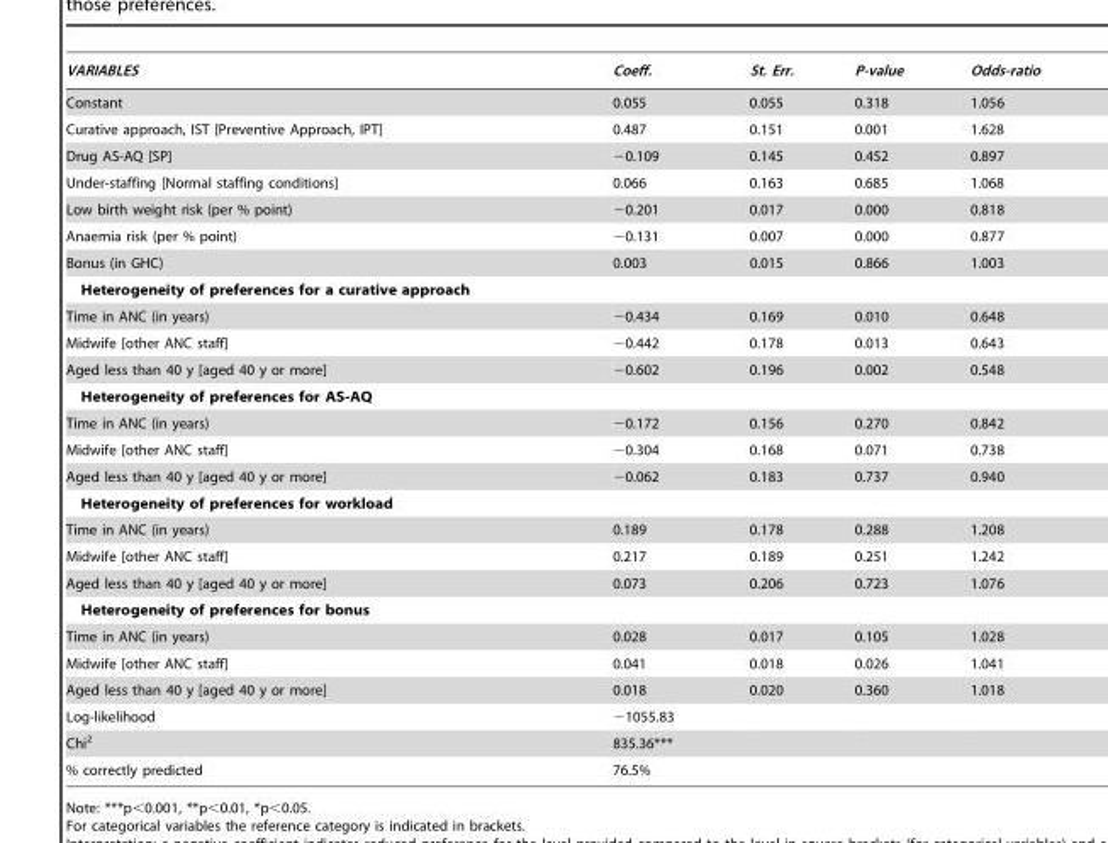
<table><thead><tr><td>VARIABLES</td><td>Coeff.</td><td>St. Err.</td><td>P-value</td><td>Odds-ratio</td></tr></thead><tbody><tr><td>Constant</td><td>0.055</td><td>0.055</td><td>0.318</td><td>1.056</td></tr><tr><td>Curative approach, IST [Preventive Approach, IPT]</td><td>0.487</td><td>0.151</td><td>0.001</td><td>1.628</td></tr><tr><td>Drug AS-AQ [SP]</td><td>−0.109</td><td>0.145</td><td>0.452</td><td>0.897</td></tr><tr><td>Under-staffing [Normal staffing conditions]</td><td>0.066</td><td>0.163</td><td>0.685</td><td>1.068</td></tr><tr><td>Low birth weight risk (per % point)</td><td>−0.201</td><td>0.017</td><td>0.000</td><td>0.818</td></tr><tr><td>Anaemia risk (per % point)</td><td>−0.131</td><td>0.007</td><td>0.000</td><td>0.877</td></tr><tr><td>Bonus (in GHC)</td><td>0.003</td><td>0.015</td><td>0.866</td><td>1.003</td></tr><tr><td colspan="5">Heterogeneity of preferences for a curative approach</td></tr><tr><td>Time in ANC (in years)</td><td>−0.434</td><td>0.169</td><td>0.010</td><td>0.648</td></tr><tr><td>Midwife [other ANC staff]</td><td>−0.442</td><td>0.178</td><td>0.013</td><td>0.643</td></tr><tr><td>Aged less than 40 y [aged 40 y or more]</td><td>−0.602</td><td>0.196</td><td>0.002</td><td>0.548</td></tr><tr><td colspan="5">Heterogeneity of preferences for AS-AQ</td></tr><tr><td>Time in ANC (in years)</td><td>−0.172</td><td>0.156</td><td>0.270</td><td>0.842</td></tr><tr><td>Midwife [other ANC staff]</td><td>−0.304</td><td>0.168</td><td>0.071</td><td>0.738</td></tr><tr><td>Aged less than 40 y [aged 40 y or more]</td><td>−0.062</td><td>0.183</td><td>0.737</td><td>0.940</td></tr><tr><td colspan="5">Heterogeneity of preferences for workload</td></tr><tr><td>Time in ANC (in years)</td><td>0.189</td><td>0.178</td><td>0.288</td><td>1.208</td></tr><tr><td>Midwife [other ANC staff]</td><td>0.217</td><td>0.189</td><td>0.251</td><td>1.242</td></tr><tr><td>Aged less than 40 y [aged 40 y or more]</td><td>0.073</td><td>0.206</td><td>0.723</td><td>1.076</td></tr><tr><td colspan="5">Heterogeneity of preferences for bonus</td></tr><tr><td>Time in ANC (in years)</td><td>0.028</td><td>0.017</td><td>0.105</td><td>1.028</td></tr><tr><td>Midwife [other ANC staff]</td><td>0.041</td><td>0.018</td><td>0.026</td><td>1.041</td></tr><tr><td>Aged less than 40 y [aged 40 y or more]</td><td>0.018</td><td>0.020</td><td>0.360</td><td>1.018</td></tr><tr><td>Log-likelihood</td><td>−1055.83</td><td></td><td></td><td></td></tr><tr><td>Chi<sup>2</sup></td><td>835.36***</td><td></td><td></td><td></td></tr><tr><td>% correctly predicted</td><td>76.5%</td><td></td><td></td><td></td></tr></tbody></table>